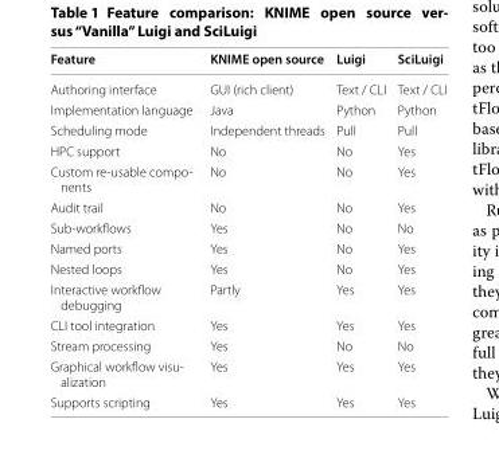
<table><thead><tr><td>Feature</td><td>KNIME open source</td><td>Luigi</td><td>SciLuigi</td></tr></thead><tbody><tr><td>Authoring interface</td><td>GUI (rich client)</td><td>Text / CLI</td><td>Text / CLI</td></tr><tr><td>Implementation language</td><td>Java</td><td>Python</td><td>Python</td></tr><tr><td>Scheduling mode</td><td>Independent threads</td><td>Pull</td><td>Pull</td></tr><tr><td>HPC support</td><td>No</td><td>No</td><td>Yes</td></tr><tr><td>Custom re-usable compo- nents</td><td>No</td><td>No</td><td>Yes</td></tr><tr><td>Audit trail</td><td>No</td><td>No</td><td>Yes</td></tr><tr><td>Sub-workflows</td><td>Yes</td><td>No</td><td>No</td></tr><tr><td>Named ports</td><td>Yes</td><td>No</td><td>Yes</td></tr><tr><td>Nested loops</td><td>Yes</td><td>No</td><td>Yes</td></tr><tr><td>Interactive workflow debugging</td><td>Partly</td><td>Yes</td><td>Yes</td></tr><tr><td>CLI tool integration</td><td>Yes</td><td>Yes</td><td>Yes</td></tr><tr><td>Stream processing</td><td>Yes</td><td>No</td><td>No</td></tr><tr><td>Graphical workflow visu- alization</td><td>Yes</td><td>Yes</td><td>Yes</td></tr><tr><td>Supports scripting</td><td>Yes</td><td>Yes</td><td>Yes</td></tr></tbody></table>